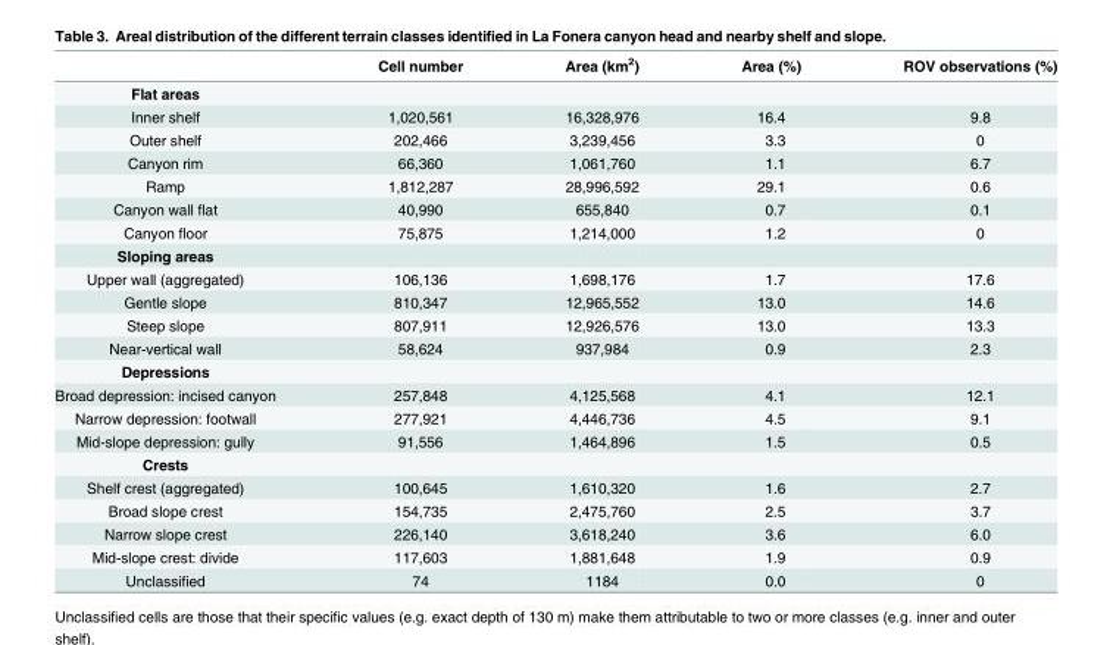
<table><thead><tr><td></td><td>Cell number</td><td>Area (km<sup>2</sup>)</td><td>Area (%)</td><td>ROV observations (%)</td></tr></thead><tbody><tr><td colspan="5">Flat areas</td></tr><tr><td>Inner shelf</td><td>1,020,561</td><td>16,328,976</td><td>16.4</td><td>9.8</td></tr><tr><td>Outer shelf</td><td>202,466</td><td>3,239,456</td><td>3.3</td><td>0</td></tr><tr><td>Canyon rim</td><td>66,360</td><td>1,061,760</td><td>1.1</td><td>6.7</td></tr><tr><td>Ramp</td><td>1,812,287</td><td>28,996,592</td><td>29.1</td><td>0.6</td></tr><tr><td>Canyon wall flat</td><td>40,990</td><td>655,840</td><td>0.7</td><td>0.1</td></tr><tr><td>Canyon floor</td><td>75,875</td><td>1,214,000</td><td>1.2</td><td>0</td></tr><tr><td colspan="5">Sloping areas</td></tr><tr><td>Upper wall (aggregated)</td><td>106,136</td><td>1,698,176</td><td>1.7</td><td>17.6</td></tr><tr><td>Gentle slope</td><td>810,347</td><td>12,965,552</td><td>13.0</td><td>14.6</td></tr><tr><td>Steep slope</td><td>807,911</td><td>12,926,576</td><td>13.0</td><td>13.3</td></tr><tr><td>Near-vertical wall</td><td>58,624</td><td>937,984</td><td>0.9</td><td>2.3</td></tr><tr><td colspan="5">Depressions</td></tr><tr><td>Broad depression: incised canyon</td><td>257,848</td><td>4,125,568</td><td>4.1</td><td>12.1</td></tr><tr><td>Narrow depression: footwall</td><td>277,921</td><td>4,446,736</td><td>4.5</td><td>9.1</td></tr><tr><td>Mid-slope depression: gully</td><td>91,556</td><td>1,464,896</td><td>1.5</td><td>0.5</td></tr><tr><td colspan="5">Crests</td></tr><tr><td>Shelf crest (aggregated)</td><td>100,645</td><td>1,610,320</td><td>1.6</td><td>2.7</td></tr><tr><td>Broad slope crest</td><td>154,735</td><td>2,475,760</td><td>2.5</td><td>3.7</td></tr><tr><td>Narrow slope crest</td><td>226,140</td><td>3,618,240</td><td>3.6</td><td>6.0</td></tr><tr><td>Mid-slope crest: divide</td><td>117,603</td><td>1,881,648</td><td>1.9</td><td>0.9</td></tr><tr><td>Unclassified</td><td>74</td><td>1184</td><td>0.0</td><td>0</td></tr></tbody></table>